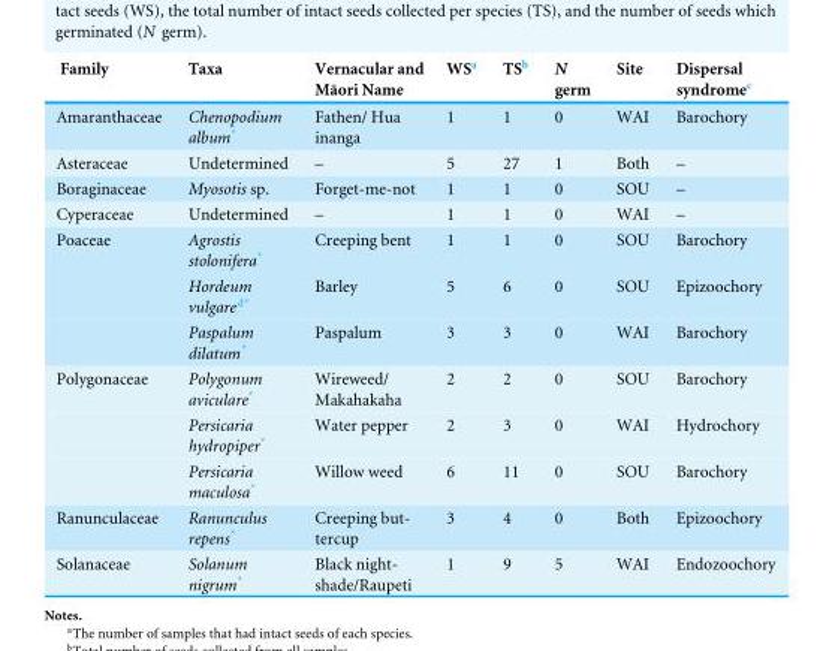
<table><thead><tr><td>Family</td><td>Taxa</td><td>Vernacular and M¯aori Name</td><td>WS<sup>a</sup></td><td>TS<sup>b</sup></td><td>N germ</td><td>Site</td><td>Dispersal syndrome<sup>c</sup></td></tr></thead><tbody><tr><td>Amaranthaceae</td><td>Chenopodium album*</td><td>Fathen/ Hua inanga</td><td>1</td><td>1</td><td>0</td><td>WAI</td><td>Barochory</td></tr><tr><td>Asteraceae</td><td>Undetermined</td><td>–</td><td>5</td><td>27</td><td>1</td><td>Both</td><td>–</td></tr><tr><td>Boraginaceae</td><td>Myosotis sp.</td><td>Forget-me-not</td><td>1</td><td>1</td><td>0</td><td>SOU</td><td>–</td></tr><tr><td>Cyperaceae</td><td>Undetermined</td><td>–</td><td>1</td><td>1</td><td>0</td><td>WAI</td><td>–</td></tr><tr><td rowspan="3">Poaceae</td><td>Agrostis stolonifera*</td><td>Creeping bent</td><td>1</td><td>1</td><td>0</td><td>SOU</td><td>Barochory</td></tr><tr><td>Hordeum vulgare<sup>d*</sup></td><td>Barley</td><td>5</td><td>6</td><td>0</td><td>SOU</td><td>Epizoochory</td></tr><tr><td>Paspalum dilatum*</td><td>Paspalum</td><td>3</td><td>3</td><td>0</td><td>WAI</td><td>Barochory</td></tr><tr><td rowspan="3">Polygonaceae</td><td>Polygonum aviculare*</td><td>Wireweed/ Makahakaha</td><td>2</td><td>2</td><td>0</td><td>SOU</td><td>Barochory</td></tr><tr><td>Persicaria hydropiper*</td><td>Water pepper</td><td>2</td><td>3</td><td>0</td><td>WAI</td><td>Hydrochory</td></tr><tr><td>Persicaria maculosa*</td><td>Willow weed</td><td>6</td><td>11</td><td>0</td><td>SOU</td><td>Barochory</td></tr><tr><td>Ranunculaceae</td><td>Ranunculus repens*</td><td>Creeping but- tercup</td><td>3</td><td>4</td><td>0</td><td>Both</td><td>Epizoochory</td></tr><tr><td>Solanaceae</td><td>Solanum nigrum*</td><td>Black night- shade/Raupeti</td><td>1</td><td>9</td><td>5</td><td>WAI</td><td>Endozoochory</td></tr></tbody></table>